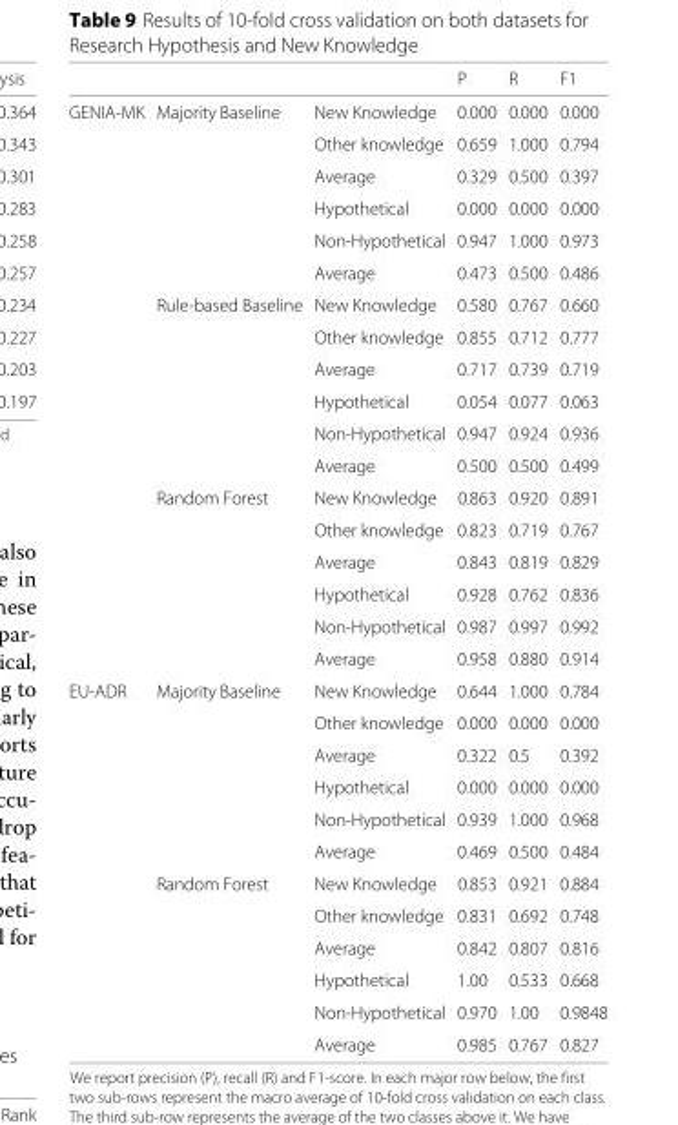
<table><thead><tr><td></td><td></td><td></td><td>P</td><td>R</td><td>F1</td></tr></thead><tbody><tr><td rowspan="18">GENIA-MK</td><td>Majority Baseline</td><td>New Knowledge</td><td>0.000</td><td>0.000</td><td>0.000</td></tr><tr><td></td><td>Other knowledge</td><td>0.659</td><td>1.000</td><td>0.794</td></tr><tr><td></td><td>Average</td><td>0.329</td><td>0.500</td><td>0.397</td></tr><tr><td></td><td>Hypothetical</td><td>0.000</td><td>0.000</td><td>0.000</td></tr><tr><td></td><td>Non-Hypothetical</td><td>0.947</td><td>1.000</td><td>0.973</td></tr><tr><td></td><td>Average</td><td>0.473</td><td>0.500</td><td>0.486</td></tr><tr><td>Rule-based Baseline</td><td>New Knowledge</td><td>0.580</td><td>0.767</td><td>0.660</td></tr><tr><td></td><td>Other knowledge</td><td>0.855</td><td>0.712</td><td>0.777</td></tr><tr><td></td><td>Average</td><td>0.717</td><td>0.739</td><td>0.719</td></tr><tr><td></td><td>Hypothetical</td><td>0.054</td><td>0.077</td><td>0.063</td></tr><tr><td></td><td>Non-Hypothetical</td><td>0.947</td><td>0.924</td><td>0.936</td></tr><tr><td></td><td>Average</td><td>0.500</td><td>0.500</td><td>0.499</td></tr><tr><td>Random Forest</td><td>New Knowledge</td><td>0.863</td><td>0.920</td><td>0.891</td></tr><tr><td></td><td>Other knowledge</td><td>0.823</td><td>0.719</td><td>0.767</td></tr><tr><td></td><td>Average</td><td>0.843</td><td>0.819</td><td>0.829</td></tr><tr><td></td><td>Hypothetical</td><td>0.928</td><td>0.762</td><td>0.836</td></tr><tr><td></td><td>Non-Hypothetical</td><td>0.987</td><td>0.997</td><td>0.992</td></tr><tr><td></td><td>Average</td><td>0.958</td><td>0.880</td><td>0.914</td></tr><tr><td rowspan="12">EU-ADR</td><td>Majority Baseline</td><td>New Knowledge</td><td>0.644</td><td>1.000</td><td>0.784</td></tr><tr><td></td><td>Other knowledge</td><td>0.000</td><td>0.000</td><td>0.000</td></tr><tr><td></td><td>Average</td><td>0.322</td><td>0.5</td><td>0.392</td></tr><tr><td></td><td>Hypothetical</td><td>0.000</td><td>0.000</td><td>0.000</td></tr><tr><td></td><td>Non-Hypothetical</td><td>0.939</td><td>1.000</td><td>0.968</td></tr><tr><td></td><td>Average</td><td>0.469</td><td>0.500</td><td>0.484</td></tr><tr><td>Random Forest</td><td>New Knowledge</td><td>0.853</td><td>0.921</td><td>0.884</td></tr><tr><td></td><td>Other knowledge</td><td>0.831</td><td>0.692</td><td>0.748</td></tr><tr><td></td><td>Average</td><td>0.842</td><td>0.807</td><td>0.816</td></tr><tr><td></td><td>Hypothetical</td><td>1.00</td><td>0.533</td><td>0.668</td></tr><tr><td></td><td>Non-Hypothetical</td><td>0.970</td><td>1.00</td><td>0.9848</td></tr><tr><td></td><td>Average</td><td>0.985</td><td>0.767</td><td>0.827</td></tr></tbody></table>